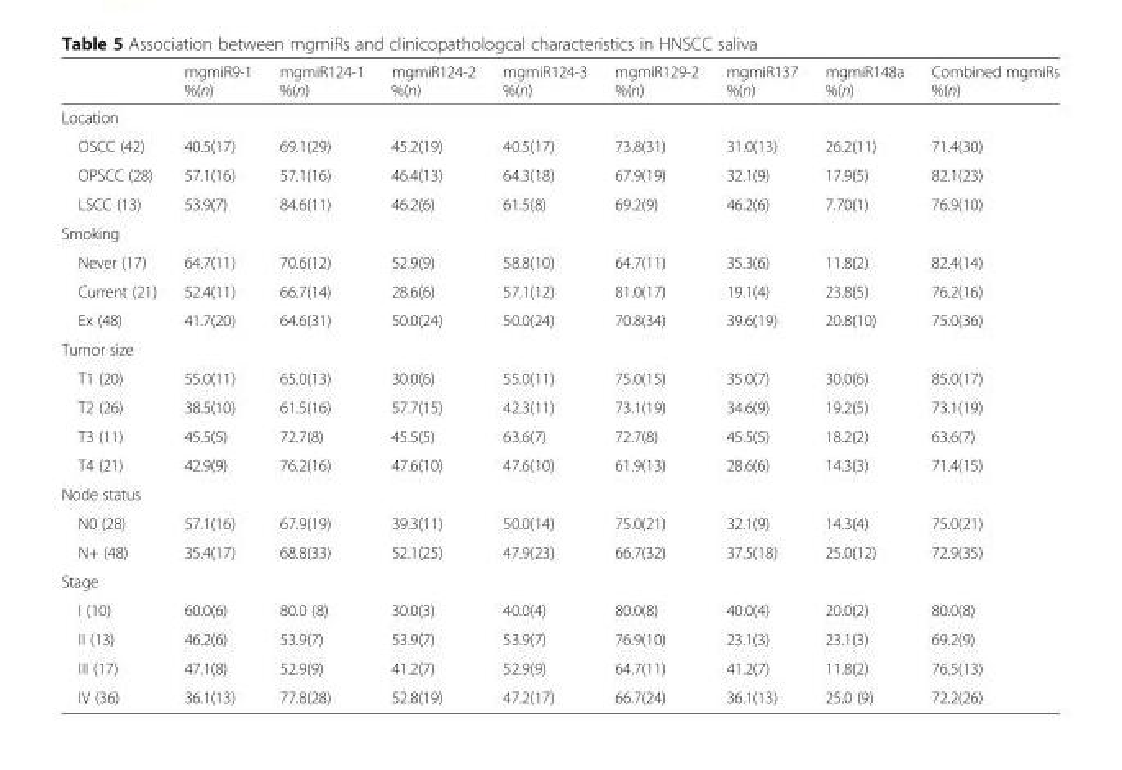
<table><thead><tr><td></td><td>mgmiR9-1 %(n)</td><td>mgmiR124-1 %(n)</td><td>mgmiR124-2 %(n)</td><td>mgmiR124-3 %(n)</td><td>mgmiR129-2 %(n)</td><td>mgmiR137 %(n)</td><td>mgmiR148a %(n)</td><td>Combined mgmiRs %(n)</td></tr></thead><tbody><tr><td colspan="9">Location</td></tr><tr><td>OSCC (42)</td><td>40.5(17)</td><td>69.1(29)</td><td>45.2(19)</td><td>40.5(17)</td><td>73.8(31)</td><td>31.0(13)</td><td>26.2(11)</td><td>71.4(30)</td></tr><tr><td>OPSCC (28)</td><td>57.1(16)</td><td>57.1(16)</td><td>46.4(13)</td><td>64.3(18)</td><td>67.9(19)</td><td>32.1(9)</td><td>17.9(5)</td><td>82.1(23)</td></tr><tr><td>LSCC (13)</td><td>53.9(7)</td><td>84.6(11)</td><td>46.2(6)</td><td>61.5(8)</td><td>69.2(9)</td><td>46.2(6)</td><td>7.70(1)</td><td>76.9(10)</td></tr><tr><td colspan="9">Smoking</td></tr><tr><td>Never (17)</td><td>64.7(11)</td><td>70.6(12)</td><td>52.9(9)</td><td>58.8(10)</td><td>64.7(11)</td><td>35.3(6)</td><td>11.8(2)</td><td>82.4(14)</td></tr><tr><td>Current (21)</td><td>52.4(11)</td><td>66.7(14)</td><td>28.6(6)</td><td>57.1(12)</td><td>81.0(17)</td><td>19.1(4)</td><td>23.8(5)</td><td>76.2(16)</td></tr><tr><td>Ex (48)</td><td>41.7(20)</td><td>64.6(31)</td><td>50.0(24)</td><td>50.0(24)</td><td>70.8(34)</td><td>39.6(19)</td><td>20.8(10)</td><td>75.0(36)</td></tr><tr><td colspan="9">Tumor size</td></tr><tr><td>T1 (20)</td><td>55.0(11)</td><td>65.0(13)</td><td>30.0(6)</td><td>55.0(11)</td><td>75.0(15)</td><td>35.0(7)</td><td>30.0(6)</td><td>85.0(17)</td></tr><tr><td>T2 (26)</td><td>38.5(10)</td><td>61.5(16)</td><td>57.7(15)</td><td>42.3(11)</td><td>73.1(19)</td><td>34.6(9)</td><td>19.2(5)</td><td>73.1(19)</td></tr><tr><td>T3 (11)</td><td>45.5(5)</td><td>72.7(8)</td><td>45.5(5)</td><td>63.6(7)</td><td>72.7(8)</td><td>45.5(5)</td><td>18.2(2)</td><td>63.6(7)</td></tr><tr><td>T4 (21)</td><td>42.9(9)</td><td>76.2(16)</td><td>47.6(10)</td><td>47.6(10)</td><td>61.9(13)</td><td>28.6(6)</td><td>14.3(3)</td><td>71.4(15)</td></tr><tr><td colspan="9">Node status</td></tr><tr><td>N0 (28)</td><td>57.1(16)</td><td>67.9(19)</td><td>39.3(11)</td><td>50.0(14)</td><td>75.0(21)</td><td>32.1(9)</td><td>14.3(4)</td><td>75.0(21)</td></tr><tr><td>N+ (48)</td><td>35.4(17)</td><td>68.8(33)</td><td>52.1(25)</td><td>47.9(23)</td><td>66.7(32)</td><td>37.5(18)</td><td>25.0(12)</td><td>72.9(35)</td></tr><tr><td colspan="9">Stage</td></tr><tr><td>I (10)</td><td>60.0(6)</td><td>80.0 (8)</td><td>30.0(3)</td><td>40.0(4)</td><td>80.0(8)</td><td>40.0(4)</td><td>20.0(2)</td><td>80.0(8)</td></tr><tr><td>II (13)</td><td>46.2(6)</td><td>53.9(7)</td><td>53.9(7)</td><td>53.9(7)</td><td>76.9(10)</td><td>23.1(3)</td><td>23.1(3)</td><td>69.2(9)</td></tr><tr><td>III (17)</td><td>47.1(8)</td><td>52.9(9)</td><td>41.2(7)</td><td>52.9(9)</td><td>64.7(11)</td><td>41.2(7)</td><td>11.8(2)</td><td>76.5(13)</td></tr><tr><td>IV (36)</td><td>36.1(13)</td><td>77.8(28)</td><td>52.8(19)</td><td>47.2(17)</td><td>66.7(24)</td><td>36.1(13)</td><td>25.0 (9)</td><td>72.2(26)</td></tr></tbody></table>